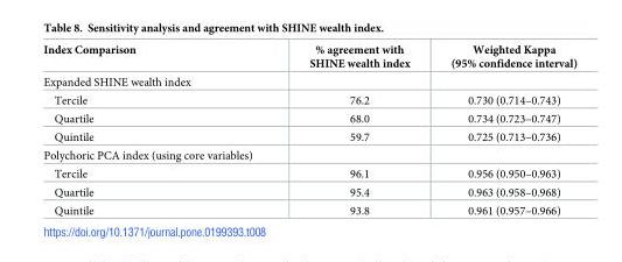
<table><thead><tr><td>Index Comparison</td><td>% agreement with SHINE wealth index</td><td>Weighted Kappa (95% confidence interval)</td></tr></thead><tbody><tr><td colspan="3">Expanded SHINE wealth index</td></tr><tr><td>Tercile</td><td>76.2</td><td>0.730 (0.714–0.743)</td></tr><tr><td>Quartile</td><td>68.0</td><td>0.734 (0.723–0.747)</td></tr><tr><td>Quintile</td><td>59.7</td><td>0.725 (0.713–0.736)</td></tr><tr><td colspan="3">Polychoric PCA index (using core variables)</td></tr><tr><td>Tercile</td><td>96.1</td><td>0.956 (0.950–0.963)</td></tr><tr><td>Quartile</td><td>95.4</td><td>0.963 (0.958–0.968)</td></tr><tr><td>Quintile</td><td>93.8</td><td>0.961 (0.957–0.966)</td></tr></tbody></table>